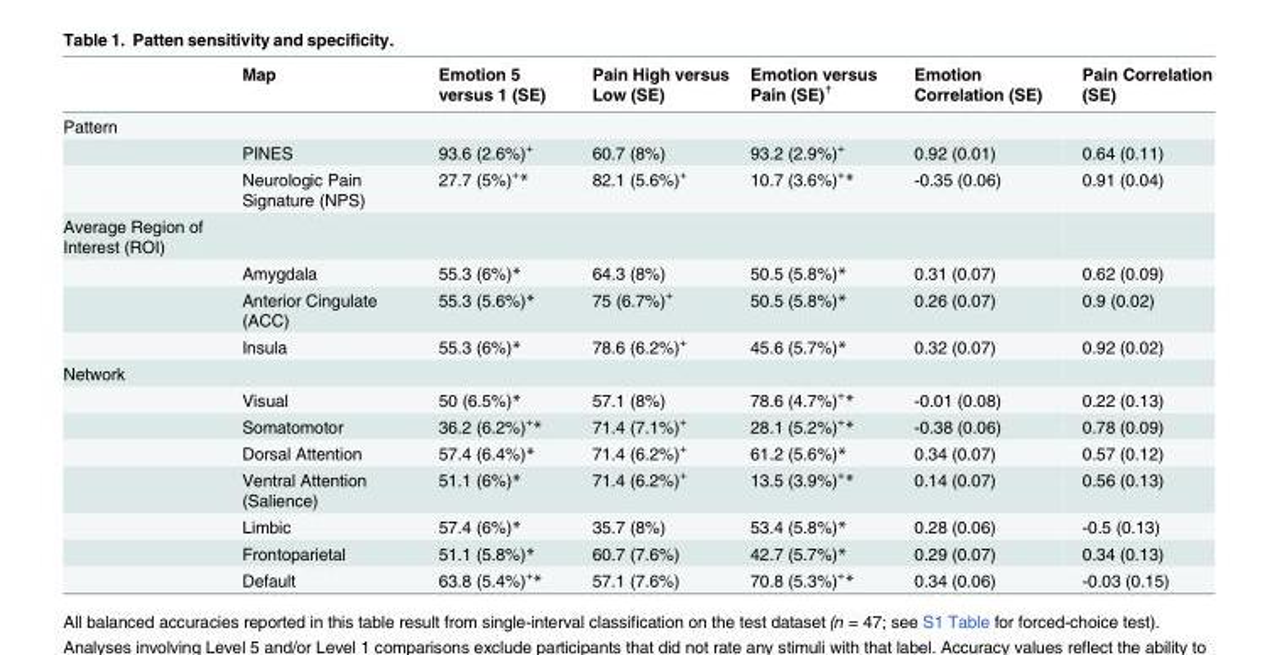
<table><thead><tr><td></td><td>Map</td><td>Emotion 5 versus 1 (SE)</td><td>Pain High versus Low (SE)</td><td>Emotion versus Pain (SE)<sup>☨</sup></td><td>Emotion Correlation (SE)</td><td>Pain Correlation (SE)</td></tr></thead><tbody><tr><td colspan="7">Pattern</td></tr><tr><td></td><td>PINES</td><td>93.6 (2.6%)<sup>+</sup></td><td>60.7 (8%)</td><td>93.2 (2.9%)<sup>+</sup></td><td>0.92 (0.01)</td><td>0.64 (0.11)</td></tr><tr><td></td><td>Neurologic Pain Signature (NPS)</td><td>27.7 (5%)<sup>+</sup>*</td><td>82.1 (5.6%)<sup>+</sup></td><td>10.7 (3.6%)<sup>+</sup>*</td><td>-0.35 (0.06)</td><td>0.91 (0.04)</td></tr><tr><td colspan="7">Average Region of Interest (ROI)</td></tr><tr><td></td><td>Amygdala</td><td>55.3 (6%)*</td><td>64.3 (8%)</td><td>50.5 (5.8%)*</td><td>0.31 (0.07)</td><td>0.62 (0.09)</td></tr><tr><td></td><td>Anterior Cingulate (ACC)</td><td>55.3 (5.6%)*</td><td>75 (6.7%)<sup>+</sup></td><td>50.5 (5.8%)*</td><td>0.26 (0.07)</td><td>0.9 (0.02)</td></tr><tr><td></td><td>Insula</td><td>55.3 (6%)*</td><td>78.6 (6.2%)<sup>+</sup></td><td>45.6 (5.7%)*</td><td>0.32 (0.07)</td><td>0.92 (0.02)</td></tr><tr><td colspan="7">Network</td></tr><tr><td></td><td>Visual</td><td>50 (6.5%)*</td><td>57.1 (8%)</td><td>78.6 (4.7%)<sup>+</sup>*</td><td>-0.01 (0.08)</td><td>0.22 (0.13)</td></tr><tr><td></td><td>Somatomotor</td><td>36.2 (6.2%)<sup>+</sup>*</td><td>71.4 (7.1%)<sup>+</sup></td><td>28.1 (5.2%)<sup>+</sup>*</td><td>-0.38 (0.06)</td><td>0.78 (0.09)</td></tr><tr><td></td><td>Dorsal Attention</td><td>57.4 (6.4%)*</td><td>71.4 (6.2%)<sup>+</sup></td><td>61.2 (5.6%)*</td><td>0.34 (0.07)</td><td>0.57 (0.12)</td></tr><tr><td></td><td>Ventral Attention (Salience)</td><td>51.1 (6%)*</td><td>71.4 (6.2%)<sup>+</sup></td><td>13.5 (3.9%)<sup>+</sup>*</td><td>0.14 (0.07)</td><td>0.56 (0.13)</td></tr><tr><td></td><td>Limbic</td><td>57.4 (6%)*</td><td>35.7 (8%)</td><td>53.4 (5.8%)*</td><td>0.28 (0.06)</td><td>-0.5 (0.13)</td></tr><tr><td></td><td>Frontoparietal</td><td>51.1 (5.8%)*</td><td>60.7 (7.6%)</td><td>42.7 (5.7%)*</td><td>0.29 (0.07)</td><td>0.34 (0.13)</td></tr><tr><td></td><td>Default</td><td>63.8 (5.4%)<sup>+</sup>*</td><td>57.1 (7.6%)</td><td>70.8 (5.3%)<sup>+</sup>*</td><td>0.34 (0.06)</td><td>-0.03 (0.15)</td></tr></tbody></table>